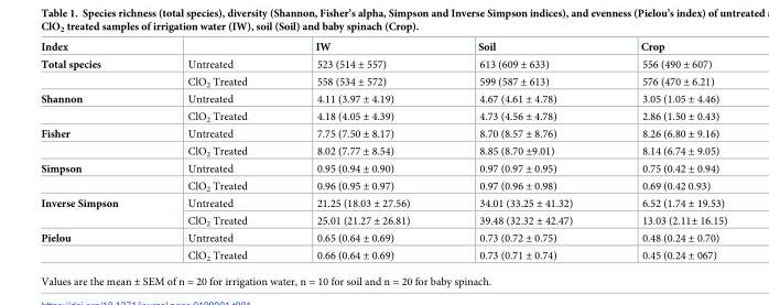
<table><thead><tr><td>Index</td><td></td><td>IW</td><td>Soil</td><td>Crop</td></tr></thead><tbody><tr><td rowspan="2">Total species</td><td>Untreated</td><td>523 (514 ± 557)</td><td>613 (609 ± 633)</td><td>556 (490 ± 607)</td></tr><tr><td>ClO<sub>2</sub> Treated</td><td>558 (534 ± 572)</td><td>599 (587 ± 613)</td><td>576 (470 ± 6.21)</td></tr><tr><td rowspan="2">Shannon</td><td>Untreated</td><td>4.11 (3.97 ± 4.19)</td><td>4.67 (4.61 ± 4.78)</td><td>3.05 (1.05 ± 4.46)</td></tr><tr><td>ClO<sub>2</sub> Treated</td><td>4.18 (4.05 ± 4.39)</td><td>4.73 (4.56 ± 4.78)</td><td>2.86 (1.50 ± 0.43)</td></tr><tr><td rowspan="2">Fisher</td><td>Untreated</td><td>7.75 (7.50 ± 8.17)</td><td>8.70 (8.57 ± 8.76)</td><td>8.26 (6.80 ± 9.16)</td></tr><tr><td>ClO<sub>2</sub> Treated</td><td>8.02 (7.77 ± 8.54)</td><td>8.85 (8.70 ±9.01)</td><td>8.14 (6.74 ± 9.05)</td></tr><tr><td rowspan="2">Simpson</td><td>Untreated</td><td>0.95 (0.94 ± 0.90)</td><td>0.97 (0.97 ± 0.95)</td><td>0.75 (0.42 ± 0.94)</td></tr><tr><td>ClO<sub>2</sub> Treated</td><td>0.96 (0.95 ± 0.97)</td><td>0.97 (0.96 ± 0.98)</td><td>0.69 (0.42 0.93)</td></tr><tr><td rowspan="2">Inverse Simpson</td><td>Untreated</td><td>21.25 (18.03 ± 27.56)</td><td>34.01 (33.25 ± 41.32)</td><td>6.52 (1.74 ± 19.53)</td></tr><tr><td>ClO<sub>2</sub> Treated</td><td>25.01 (21.27 ± 26.81)</td><td>39.48 (32.32 ± 42.47)</td><td>13.03 (2.11± 16.15)</td></tr><tr><td rowspan="2">Pielou</td><td>Untreated</td><td>0.65 (0.64 ± 0.69)</td><td>0.73 (0.72 ± 0.75)</td><td>0.48 (0.24 ± 0.70)</td></tr><tr><td>ClO<sub>2</sub> Treated</td><td>0.66 (0.64 ± 0.69)</td><td>0.73 (0.71 ± 0.74)</td><td>0.45 (0.24 ± 067)</td></tr></tbody></table>